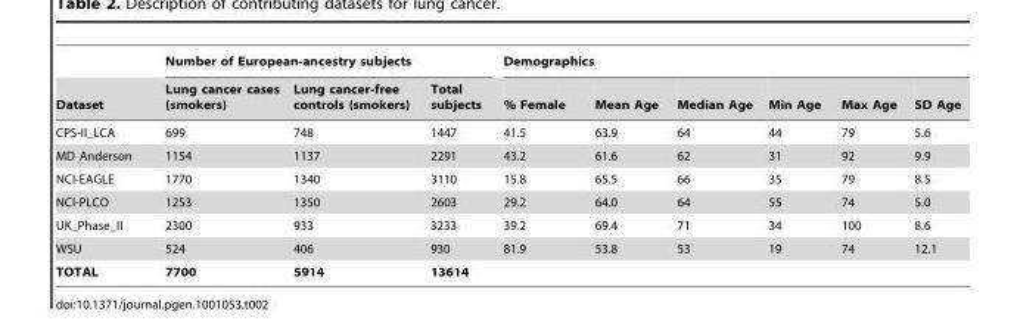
<table><thead><tr><td rowspan="2">Dataset</td><td colspan="3">Number of European-ancestry subjects</td><td colspan="6">Demographics</td></tr><tr><td>Lung cancer cases (smokers)</td><td>Lung cancer-free controls (smokers)</td><td>Total subjects</td><td>% Female</td><td>Mean Age</td><td>Median Age</td><td>Min Age</td><td>Max Age</td><td>SD Age</td></tr></thead><tbody><tr><td>CPS-II_LCA</td><td>699</td><td>748</td><td>1447</td><td>41.5</td><td>63.9</td><td>64</td><td>44</td><td>79</td><td>5.6</td></tr><tr><td>MD Anderson</td><td>1154</td><td>1137</td><td>2291</td><td>43.2</td><td>61.6</td><td>62</td><td>31</td><td>92</td><td>9.9</td></tr><tr><td>NCI-EAGLE</td><td>1770</td><td>1340</td><td>3110</td><td>15.8</td><td>65.5</td><td>66</td><td>35</td><td>79</td><td>8.5</td></tr><tr><td>NCI-PLCO</td><td>1253</td><td>1350</td><td>2603</td><td>29.2</td><td>64.0</td><td>64</td><td>55</td><td>74</td><td>5.0</td></tr><tr><td>UK_Phase_II</td><td>2300</td><td>933</td><td>3233</td><td>39.2</td><td>69.4</td><td>71</td><td>34</td><td>100</td><td>8.6</td></tr><tr><td>WSU</td><td>524</td><td>406</td><td>930</td><td>81.9</td><td>53.8</td><td>53</td><td>19</td><td>74</td><td>12.1</td></tr><tr><td>TOTAL</td><td>7700</td><td>5914</td><td>13614</td><td></td><td></td><td></td><td></td><td></td><td></td></tr></tbody></table>